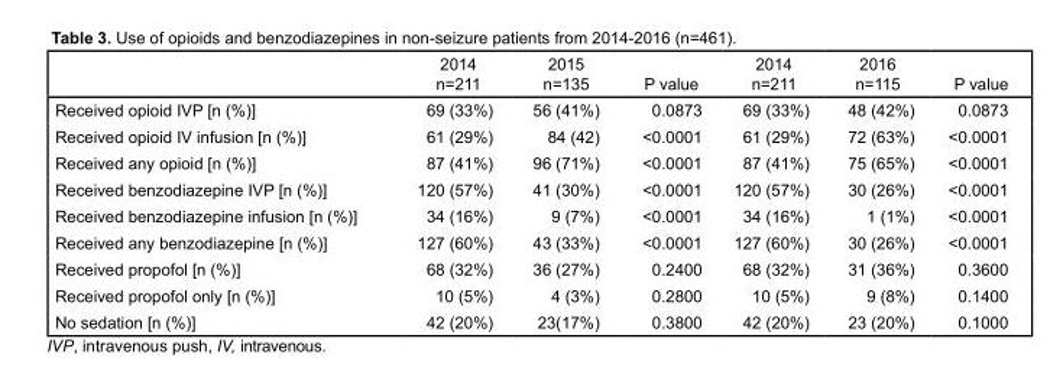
<table><thead><tr><td></td><td>2014 n=211</td><td>2015 n=135</td><td>P value</td><td>2014 n=211</td><td>2016 n=115</td><td>P value</td></tr></thead><tbody><tr><td>Received opioid IVP [n (%)]</td><td>69 (33%)</td><td>56 (41%)</td><td>0.0873</td><td>69 (33%)</td><td>48 (42%)</td><td>0.0873</td></tr><tr><td>Received opioid IV infusion [n (%)]</td><td>61 (29%)</td><td>84 (42)</td><td>&lt;0.0001</td><td>61 (29%)</td><td>72 (63%)</td><td>&lt;0.0001</td></tr><tr><td>Received any opioid [n (%)]</td><td>87 (41%)</td><td>96 (71%)</td><td>&lt;0.0001</td><td>87 (41%)</td><td>75 (65%)</td><td>&lt;0.0001</td></tr><tr><td>Received benzodiazepine IVP [n (%)]</td><td>120 (57%)</td><td>41 (30%)</td><td>&lt;0.0001</td><td>120 (57%)</td><td>30 (26%)</td><td>&lt;0.0001</td></tr><tr><td>Received benzodiazepine infusion [n (%)]</td><td>34 (16%)</td><td>9 (7%)</td><td>&lt;0.0001</td><td>34 (16%)</td><td>1 (1%)</td><td>&lt;0.0001</td></tr><tr><td>Received any benzodiazepine [n (%)]</td><td>127 (60%)</td><td>43 (33%)</td><td>&lt;0.0001</td><td>127 (60%)</td><td>30 (26%)</td><td>&lt;0.0001</td></tr><tr><td>Received propofol [n (%)]</td><td>68 (32%)</td><td>36 (27%)</td><td>0.2400</td><td>68 (32%)</td><td>31 (36%)</td><td>0.3600</td></tr><tr><td>Received propofol only [n (%)]</td><td>10 (5%)</td><td>4 (3%)</td><td>0.2800</td><td>10 (5%)</td><td>9 (8%)</td><td>0.1400</td></tr><tr><td>No sedation [n (%)]</td><td>42 (20%)</td><td>23(17%)</td><td>0.3800</td><td>42 (20%)</td><td>23 (20%)</td><td>0.1000</td></tr></tbody></table>